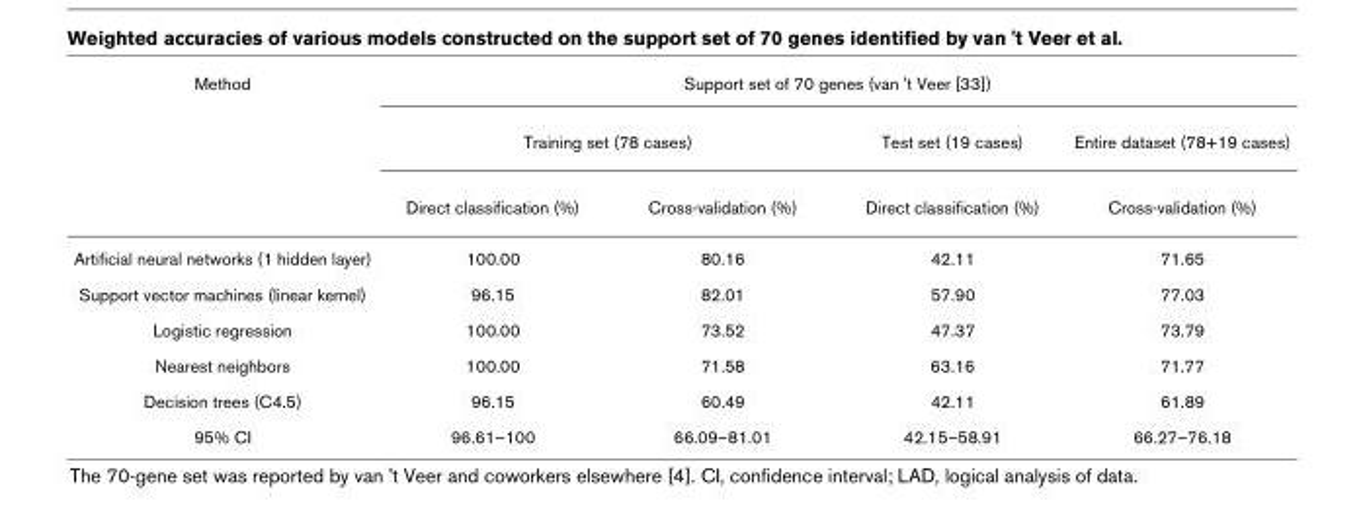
<table><thead><tr><td rowspan="3">Method</td><td colspan="4">Support set of 70 genes (van &#x27;t Veer [33])</td></tr><tr><td colspan="2">Training set (78 cases)</td><td rowspan="2">Test set (19 cases) Direct classification (%)</td><td rowspan="2">Entire dataset (78+19 cases) Cross-validation (%)</td></tr><tr><td>Direct classification (%)</td><td>Cross-validation (%)</td></tr></thead><tbody><tr><td>Artificial neural networks (1 hidden layer)</td><td>100.00</td><td>80.16</td><td>42.11</td><td>71.65</td></tr><tr><td>Support vector machines (linear kernel)</td><td>96.15</td><td>82.01</td><td>57.90</td><td>77.03</td></tr><tr><td>Logistic regression</td><td>100.00</td><td>73.52</td><td>47.37</td><td>73.79</td></tr><tr><td>Nearest neighbors</td><td>100.00</td><td>71.58</td><td>63.16</td><td>71.77</td></tr><tr><td>Decision trees (C4.5)</td><td>96.15</td><td>60.49</td><td>42.11</td><td>61.89</td></tr><tr><td>95% CI</td><td>96.61–100</td><td>66.09–81.01</td><td>42.15–58.91</td><td>66.27–76.18</td></tr></tbody></table>